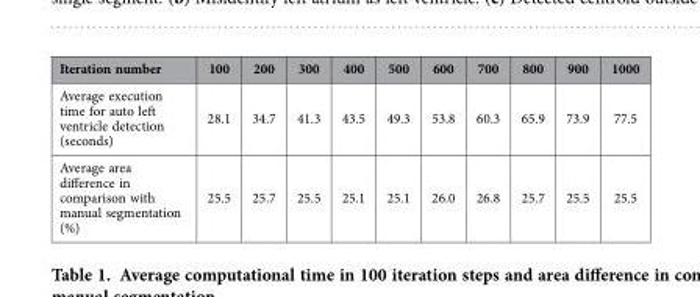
<table><thead><tr><td>Iteration number</td><td>100</td><td>200</td><td>300</td><td>400</td><td>500</td><td>600</td><td>700</td><td>800</td><td>900</td><td>1000</td></tr></thead><tbody><tr><td>Average execution time for auto left ventricle detection (seconds)</td><td>28.1</td><td>34.7</td><td>41.3</td><td>43.5</td><td>49.3</td><td>53.8</td><td>60.3</td><td>65.9</td><td>73.9</td><td>77.5</td></tr><tr><td>Average area difference in comparison with manual segmentation (%)</td><td>25.5</td><td>25.7</td><td>25.5</td><td>25.1</td><td>25.1</td><td>26.0</td><td>26.8</td><td>25.7</td><td>25.5</td><td>25.5</td></tr></tbody></table>